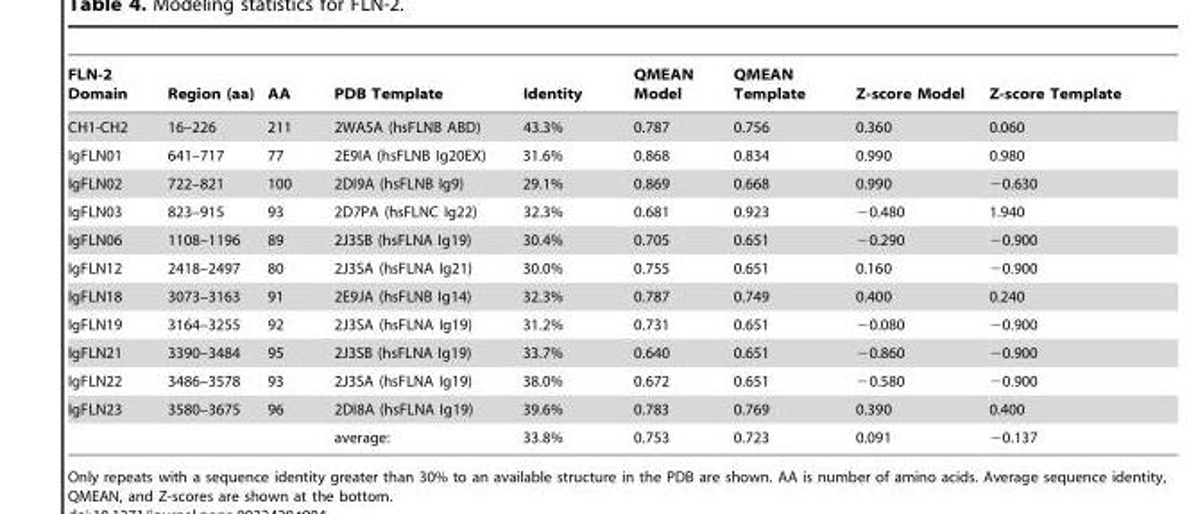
<table><thead><tr><td>FLN-2 Domain</td><td>Region (aa)</td><td>AA</td><td>PDB Template</td><td>Identity</td><td>QMEAN Model</td><td>QMEAN Template</td><td>Z-score Model</td><td>Z-score Template</td></tr></thead><tbody><tr><td>CH1-CH2</td><td>16–226</td><td>211</td><td>2WA5A (hsFLNB ABD)</td><td>43.3%</td><td>0.787</td><td>0.756</td><td>0.360</td><td>0.060</td></tr><tr><td>IgFLN01</td><td>641–717</td><td>77</td><td>2E9IA (hsFLNB Ig20EX)</td><td>31.6%</td><td>0.868</td><td>0.834</td><td>0.990</td><td>0.980</td></tr><tr><td>IgFLN02</td><td>722–821</td><td>100</td><td>2DI9A (hsFLNB Ig9)</td><td>29.1%</td><td>0.869</td><td>0.668</td><td>0.990</td><td>−0.630</td></tr><tr><td>IgFLN03</td><td>823–915</td><td>93</td><td>2D7PA (hsFLNC Ig22)</td><td>32.3%</td><td>0.681</td><td>0.923</td><td>−0.480</td><td>1.940</td></tr><tr><td>IgFLN06</td><td>1108–1196</td><td>89</td><td>2J3SB (hsFLNA Ig19)</td><td>30.4%</td><td>0.705</td><td>0.651</td><td>−0.290</td><td>−0.900</td></tr><tr><td>IgFLN12</td><td>2418–2497</td><td>80</td><td>2J3SA (hsFLNA Ig21)</td><td>30.0%</td><td>0.755</td><td>0.651</td><td>0.160</td><td>−0.900</td></tr><tr><td>IgFLN18</td><td>3073–3163</td><td>91</td><td>2E9JA (hsFLNB Ig14)</td><td>32.3%</td><td>0.787</td><td>0.749</td><td>0.400</td><td>0.240</td></tr><tr><td>IgFLN19</td><td>3164–3255</td><td>92</td><td>2J3SA (hsFLNA Ig19)</td><td>31.2%</td><td>0.731</td><td>0.651</td><td>−0.080</td><td>−0.900</td></tr><tr><td>IgFLN21</td><td>3390–3484</td><td>95</td><td>2J3SB (hsFLNA Ig19)</td><td>33.7%</td><td>0.640</td><td>0.651</td><td>−0.860</td><td>−0.900</td></tr><tr><td>IgFLN22</td><td>3486–3578</td><td>93</td><td>2J3SA (hsFLNA Ig19)</td><td>38.0%</td><td>0.672</td><td>0.651</td><td>−0.580</td><td>−0.900</td></tr><tr><td rowspan="2">IgFLN23</td><td>3580–3675</td><td>96</td><td>2DI8A (hsFLNA Ig19)</td><td>39.6%</td><td>0.783</td><td>0.769</td><td>0.390</td><td>0.400</td></tr><tr><td></td><td></td><td>average:</td><td>33.8%</td><td>0.753</td><td>0.723</td><td>0.091</td><td>−0.137</td></tr></tbody></table>